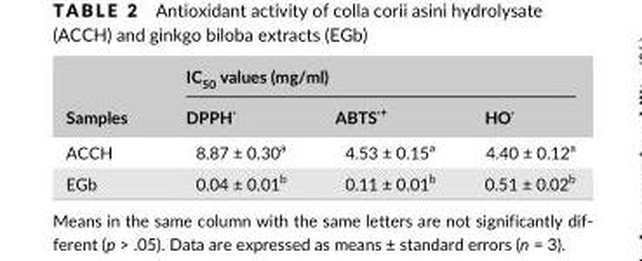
<table><thead><tr><td rowspan="2">Samples</td><td colspan="3">IC<sub>50</sub> values (mg/ml)</td></tr><tr><td>DPPH<sup>·</sup></td><td>ABTS<sup>·+</sup></td><td>HO<sup>·</sup></td></tr></thead><tbody><tr><td>ACCH</td><td>8.87 ± 0.30<sup>a</sup></td><td>4.53 ± 0.15<sup>a</sup></td><td>4.40 ± 0.12<sup>a</sup></td></tr><tr><td>EGb</td><td>0.04 ± 0.01<sup>b</sup></td><td>0.11 ± 0.01<sup>b</sup></td><td>0.51 ± 0.02<sup>b</sup></td></tr></tbody></table>